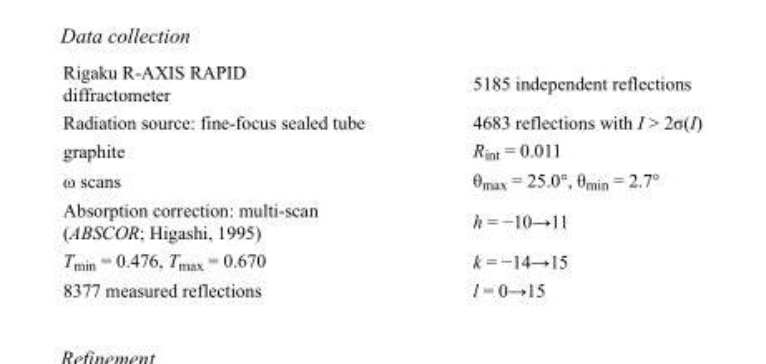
<table><tbody><tr><td>Rigaku R-AXIS RAPID diffractometer</td><td>5185 independent reflections</td></tr><tr><td>Radiation source: fine-focus sealed tube</td><td>4683 reflections with I &gt; 2σ(I)</td></tr><tr><td>graphite</td><td>R<sub>int</sub> = 0.011</td></tr><tr><td>ω scans</td><td>θ<sub>max</sub> = 25.0°, θ<sub>min</sub> = 2.7°</td></tr><tr><td>Absorption correction: multi-scan (ABSCOR; Higashi, 1995)</td><td>h = −10→11</td></tr><tr><td>T<sub>min</sub> = 0.476, T<sub>max</sub> = 0.670</td><td>k = −14→15</td></tr><tr><td>8377 measured reflections</td><td>l = 0→15</td></tr></tbody></table>